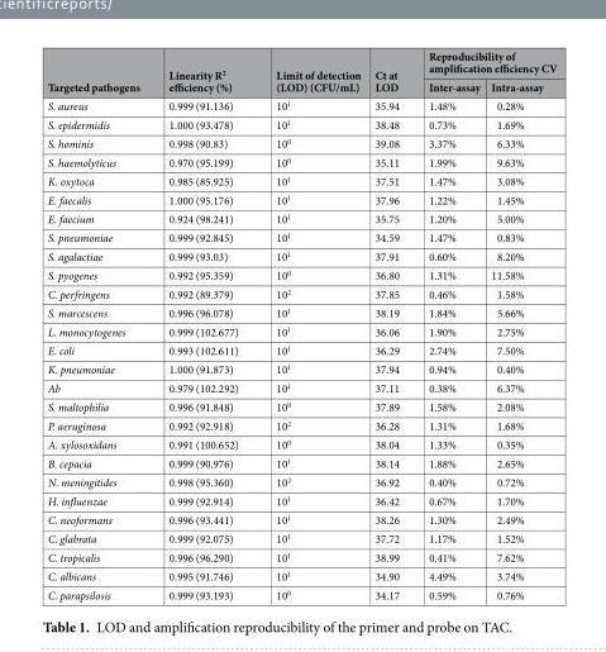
<table><thead><tr><td rowspan="2">Targeted pathogens</td><td rowspan="2">Linearity R<sup>2</sup> efficiency (%)</td><td rowspan="2">Limit of detection (LOD) (CFU/mL)</td><td rowspan="2">Ct at LOD</td><td colspan="2">Reproducibility of amplification efficiency CV</td></tr><tr><td>Inter-assay</td><td>Intra-assay</td></tr></thead><tbody><tr><td>S. aureus</td><td>0.999 (91.136)</td><td>10<sup>1</sup></td><td>35.94</td><td>1.48%</td><td>0.28%</td></tr><tr><td>S. epidermidis</td><td>1.000 (93.478)</td><td>10<sup>1</sup></td><td>38.48</td><td>0.73%</td><td>1.69%</td></tr><tr><td>S. hominis</td><td>0.998 (90.83)</td><td>10<sup>0</sup></td><td>39.08</td><td>3.37%</td><td>6.33%</td></tr><tr><td>S. haemolyticus</td><td>0.970 (95.199)</td><td>10<sup>0</sup></td><td>35.11</td><td>1.99%</td><td>9.63%</td></tr><tr><td>K. oxytoca</td><td>0.985 (85.925)</td><td>10<sup>1</sup></td><td>37.51</td><td>1.47%</td><td>3.08%</td></tr><tr><td>E. faecalis</td><td>1.000 (95.176)</td><td>10<sup>1</sup></td><td>37.96</td><td>1.22%</td><td>1.45%</td></tr><tr><td>E. faecium</td><td>0.924 (98.241)</td><td>10<sup>1</sup></td><td>35.75</td><td>1.20%</td><td>5.00%</td></tr><tr><td>S. pneumoniae</td><td>0.999 (92.845)</td><td>10<sup>1</sup></td><td>34.59</td><td>1.47%</td><td>0.83%</td></tr><tr><td>S. agalactiae</td><td>0.999 (93.03)</td><td>10<sup>1</sup></td><td>37.91</td><td>0.60%</td><td>8.20%</td></tr><tr><td>S. pyogenes</td><td>0.992 (95.359)</td><td>10<sup>0</sup></td><td>36.80</td><td>1.31%</td><td>11.58%</td></tr><tr><td>C. perfringens</td><td>0.992 (89.379)</td><td>10<sup>2</sup></td><td>37.85</td><td>0.46%</td><td>1.58%</td></tr><tr><td>S. marcescens</td><td>0.996 (96.078)</td><td>10<sup>1</sup></td><td>38.19</td><td>1.84%</td><td>5.66%</td></tr><tr><td>L. monocytogenes</td><td>0.999 (102.677)</td><td>10<sup>1</sup></td><td>36.06</td><td>1.90%</td><td>2.75%</td></tr><tr><td>E. coli</td><td>0.993 (102.611)</td><td>10<sup>1</sup></td><td>36.29</td><td>2.74%</td><td>7.50%</td></tr><tr><td>K. pneumoniae</td><td>1.000 (91.873)</td><td>10<sup>1</sup></td><td>37.94</td><td>0.94%</td><td>0.40%</td></tr><tr><td>Ab</td><td>0.979 (102.292)</td><td>10<sup>1</sup></td><td>37.11</td><td>0.38%</td><td>6.37%</td></tr><tr><td>S. maltophilia</td><td>0.996 (91.848)</td><td>10<sup>0</sup></td><td>37.89</td><td>1.58%</td><td>2.08%</td></tr><tr><td>P. aeruginosa</td><td>0.992 (92.918)</td><td>10<sup>2</sup></td><td>36.28</td><td>1.31%</td><td>1.68%</td></tr><tr><td>A. xylosoxidans</td><td>0.991 (100.652)</td><td>10<sup>0</sup></td><td>38.04</td><td>1.33%</td><td>0.35%</td></tr><tr><td>B. cepacia</td><td>0.999 (90.976)</td><td>10<sup>1</sup></td><td>38.14</td><td>1.88%</td><td>2.65%</td></tr><tr><td>N. meningitides</td><td>0.998 (95.360)</td><td>10<sup>2</sup></td><td>36.92</td><td>0.40%</td><td>0.72%</td></tr><tr><td>H. influenzae</td><td>0.999 (92.914)</td><td>10<sup>1</sup></td><td>36.42</td><td>0.67%</td><td>1.70%</td></tr><tr><td>C. neoformans</td><td>0.996 (93.441)</td><td>10<sup>1</sup></td><td>38.26</td><td>1.30%</td><td>2.49%</td></tr><tr><td>C. glabrata</td><td>0.999 (92.075)</td><td>10<sup>1</sup></td><td>37.72</td><td>1.17%</td><td>1.52%</td></tr><tr><td>C. tropicalis</td><td>0.996 (96.290)</td><td>10<sup>1</sup></td><td>38.99</td><td>0.41%</td><td>7.62%</td></tr><tr><td>C. albicans</td><td>0.995 (91.746)</td><td>10<sup>1</sup></td><td>34.90</td><td>4.49%</td><td>3.74%</td></tr><tr><td>C. parapsilosis</td><td>0.999 (93.193)</td><td>10<sup>0</sup></td><td>34.17</td><td>0.59%</td><td>0.76%</td></tr></tbody></table>